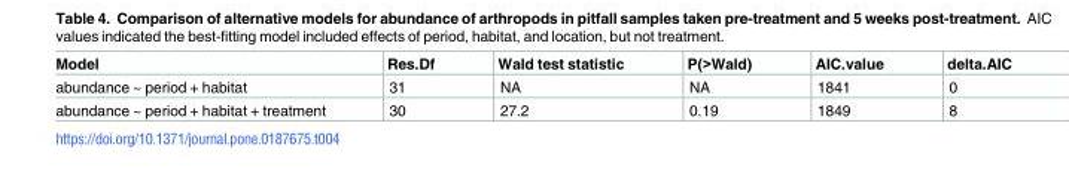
<table><thead><tr><td>Model</td><td>Res.Df</td><td>Wald test statistic</td><td>P(&gt;Wald)</td><td>AIC.value</td><td>delta.AIC</td></tr></thead><tbody><tr><td>abundance ~ period + habitat</td><td>31</td><td>NA</td><td>NA</td><td>1841</td><td>0</td></tr><tr><td>abundance ~ period + habitat + treatment</td><td>30</td><td>27.2</td><td>0.19</td><td>1849</td><td>8</td></tr></tbody></table>